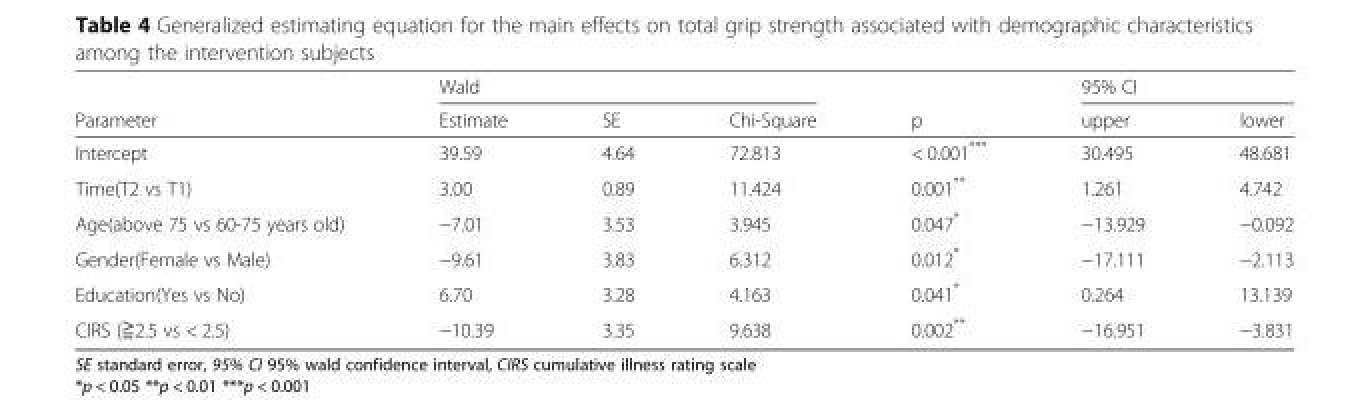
<table><thead><tr><td rowspan="2">Parameter</td><td colspan="3">Wald</td><td rowspan="2">p</td><td colspan="2">95% CI</td></tr><tr><td>Estimate</td><td>SE</td><td>Chi-Square</td><td>upper</td><td>lower</td></tr></thead><tbody><tr><td>Intercept</td><td>39.59</td><td>4.64</td><td>72.813</td><td>&lt; 0.001***</td><td>30.495</td><td>48.681</td></tr><tr><td>Time(T2 vs T1)</td><td>3.00</td><td>0.89</td><td>11.424</td><td>0.001**</td><td>1.261</td><td>4.742</td></tr><tr><td>Age(above 75 vs 60-75 years old)</td><td>−7.01</td><td>3.53</td><td>3.945</td><td>0.047*</td><td>−13.929</td><td>−0.092</td></tr><tr><td>Gender(Female vs Male)</td><td>−9.61</td><td>3.83</td><td>6.312</td><td>0.012*</td><td>−17.111</td><td>−2.113</td></tr><tr><td>Education(Yes vs No)</td><td>6.70</td><td>3.28</td><td>4.163</td><td>0.041*</td><td>0.264</td><td>13.139</td></tr><tr><td>CIRS (≧2.5 vs &lt; 2.5)</td><td>−10.39</td><td>3.35</td><td>9.638</td><td>0.002**</td><td>−16.951</td><td>−3.831</td></tr></tbody></table>